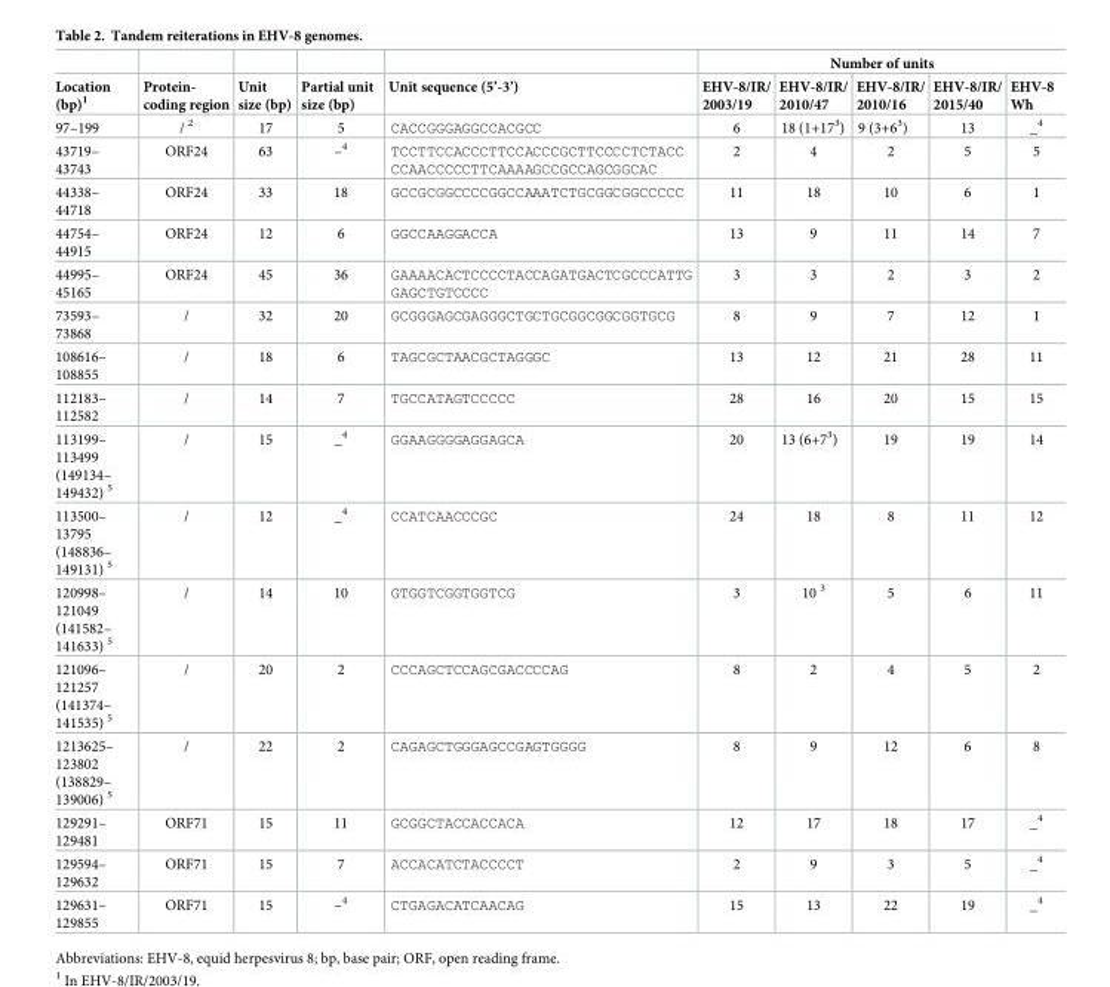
<table><thead><tr><td rowspan="2">Location (bp)<sup>1</sup></td><td rowspan="2">Protein- coding region</td><td rowspan="2">Unit size (bp)</td><td rowspan="2">Partial unit size (bp)</td><td rowspan="2">Unit sequence (5’-3’)</td><td colspan="5">Number of units</td></tr><tr><td>EHV-8/IR/ 2003/19</td><td>EHV-8/IR/ 2010/47</td><td>EHV-8/IR/ 2010/16</td><td>EHV-8/IR/ 2015/40</td><td>EHV-8 Wh</td></tr></thead><tbody><tr><td>97–199</td><td>/ <sup>2</sup></td><td>17</td><td>5</td><td>CACCGGGAGGCCACGCC</td><td>6</td><td>18 (1+17<sup>3</sup>)</td><td>9 (3+6<sup>3</sup>)</td><td>13</td><td>_<sup>4</sup></td></tr><tr><td>43719– 43743</td><td>ORF24</td><td>63</td><td>–<sup>4</sup></td><td>TCCTTCCACCCTTCCACCCGCTTCCCCTCTACC CCAACCCCCTTCAAAAGCCGCCAGCGGCAC</td><td>2</td><td>4</td><td>2</td><td>5</td><td>5</td></tr><tr><td>44338– 44718</td><td>ORF24</td><td>33</td><td>18</td><td>GCCGCGGCCCCGGCCAAATCTGCGGCGGCCCCC</td><td>11</td><td>18</td><td>10</td><td>6</td><td>1</td></tr><tr><td>44754– 44915</td><td>ORF24</td><td>12</td><td>6</td><td>GGCCAAGGACCA</td><td>13</td><td>9</td><td>11</td><td>14</td><td>7</td></tr><tr><td>44995– 45165</td><td>ORF24</td><td>45</td><td>36</td><td>GAAAACACTCCCCTACCAGATGACTCGCCCATTG GAGCTGTCCCC</td><td>3</td><td>3</td><td>2</td><td>3</td><td>2</td></tr><tr><td>73593– 73868</td><td>/</td><td>32</td><td>20</td><td>GCGGGAGCGAGGGCTGCTGCGGCGGCGGTGCG</td><td>8</td><td>9</td><td>7</td><td>12</td><td>1</td></tr><tr><td>108616– 108855</td><td>/</td><td>18</td><td>6</td><td>TAGCGCTAACGCTAGGGC</td><td>13</td><td>12</td><td>21</td><td>28</td><td>11</td></tr><tr><td>112183– 112582</td><td>/</td><td>14</td><td>7</td><td>TGCCATAGTCCCCC</td><td>28</td><td>16</td><td>20</td><td>15</td><td>15</td></tr><tr><td>113199– 113499 (149134– 149432) <sup>5</sup></td><td>/</td><td>15</td><td>_<sup>4</sup></td><td>GGAAGGGGAGGAGCA</td><td>20</td><td>13 (6+7<sup>3</sup>)</td><td>19</td><td>19</td><td>14</td></tr><tr><td>113500– 13795 (148836– 149131) <sup>5</sup></td><td>/</td><td>12</td><td>_<sup>4</sup></td><td>CCATCAACCCGC</td><td>24</td><td>18</td><td>8</td><td>11</td><td>12</td></tr><tr><td>120998– 121049 (141582– 141633) <sup>5</sup></td><td>/</td><td>14</td><td>10</td><td>GTGGTCGGTGGTCG</td><td>3</td><td>10 <sup>3</sup></td><td>5</td><td>6</td><td>11</td></tr><tr><td>121096– 121257 (141374– 141535) <sup>5</sup></td><td>/</td><td>20</td><td>2</td><td>CCCAGCTCCAGCGACCCCAG</td><td>8</td><td>2</td><td>4</td><td>5</td><td>2</td></tr><tr><td>1213625– 123802 (138829– 139006) <sup>5</sup></td><td>/</td><td>22</td><td>2</td><td>CAGAGCTGGGAGCCGAGTGGGG</td><td>8</td><td>9</td><td>12</td><td>6</td><td>8</td></tr><tr><td>129291– 129481</td><td>ORF71</td><td>15</td><td>11</td><td>GCGGCTACCACCACA</td><td>12</td><td>17</td><td>18</td><td>17</td><td>_<sup>4</sup></td></tr><tr><td>129594– 129632</td><td>ORF71</td><td>15</td><td>7</td><td>ACCACATCTACCCCT</td><td>2</td><td>9</td><td>3</td><td>5</td><td>_<sup>4</sup></td></tr><tr><td>129631– 129855</td><td>ORF71</td><td>15</td><td>–<sup>4</sup></td><td>CTGAGACATCAACAG</td><td>15</td><td>13</td><td>22</td><td>19</td><td>_<sup>4</sup></td></tr></tbody></table>